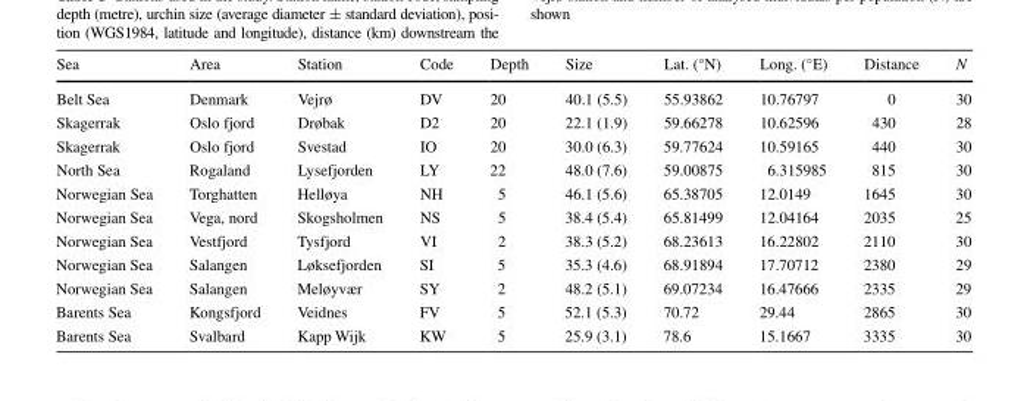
<table><thead><tr><td>Sea</td><td>Area</td><td>Station</td><td>Code</td><td>Depth</td><td>Size</td><td>Lat. (°N)</td><td>Long. (°E)</td><td>Distance</td><td>N</td></tr></thead><tbody><tr><td>Belt Sea</td><td>Denmark</td><td>Vejrø</td><td>DV</td><td>20</td><td>40.1 (5.5)</td><td>55.93862</td><td>10.76797</td><td>0</td><td>30</td></tr><tr><td>Skagerrak</td><td>Oslo fjord</td><td>Drøbak</td><td>D2</td><td>20</td><td>22.1 (1.9)</td><td>59.66278</td><td>10.62596</td><td>430</td><td>28</td></tr><tr><td>Skagerrak</td><td>Oslo fjord</td><td>Svestad</td><td>IO</td><td>20</td><td>30.0 (6.3)</td><td>59.77624</td><td>10.59165</td><td>440</td><td>30</td></tr><tr><td>North Sea</td><td>Rogaland</td><td>Lysefjorden</td><td>LY</td><td>22</td><td>48.0 (7.6)</td><td>59.00875</td><td>6.315985</td><td>815</td><td>30</td></tr><tr><td>Norwegian Sea</td><td>Torghatten</td><td>Helløya</td><td>NH</td><td>5</td><td>46.1 (5.6)</td><td>65.38705</td><td>12.0149</td><td>1645</td><td>30</td></tr><tr><td>Norwegian Sea</td><td>Vega, nord</td><td>Skogsholmen</td><td>NS</td><td>5</td><td>38.4 (5.4)</td><td>65.81499</td><td>12.04164</td><td>2035</td><td>25</td></tr><tr><td>Norwegian Sea</td><td>Vestfjord</td><td>Tysfjord</td><td>VI</td><td>2</td><td>38.3 (5.2)</td><td>68.23613</td><td>16.22802</td><td>2110</td><td>30</td></tr><tr><td>Norwegian Sea</td><td>Salangen</td><td>Løksefjorden</td><td>SI</td><td>5</td><td>35.3 (4.6)</td><td>68.91894</td><td>17.70712</td><td>2380</td><td>29</td></tr><tr><td>Norwegian Sea</td><td>Salangen</td><td>Meløyvær</td><td>SY</td><td>2</td><td>48.2 (5.1)</td><td>69.07234</td><td>16.47666</td><td>2335</td><td>29</td></tr><tr><td>Barents Sea</td><td>Kongsfjord</td><td>Veidnes</td><td>FV</td><td>5</td><td>52.1 (5.3)</td><td>70.72</td><td>29.44</td><td>2865</td><td>30</td></tr><tr><td>Barents Sea</td><td>Svalbard</td><td>Kapp Wijk</td><td>KW</td><td>5</td><td>25.9 (3.1)</td><td>78.6</td><td>15.1667</td><td>3335</td><td>30</td></tr></tbody></table>